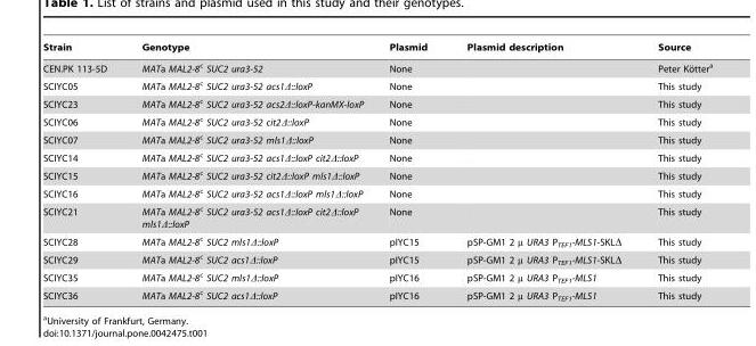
<table><thead><tr><td>Strain</td><td>Genotype</td><td>Plasmid</td><td>Plasmid description</td><td>Source</td></tr></thead><tbody><tr><td>CEN.PK 113-5D</td><td>MATa MAL2-8<sup>c</sup> SUC2 ura3-52</td><td>None</td><td></td><td>Peter Ko¨ttera</td></tr><tr><td>SCIYC05</td><td>MATa MAL2-8<sup>c</sup> SUC2 ura3-52 acs1Δ::loxP</td><td>None</td><td></td><td>This study</td></tr><tr><td>SCIYC23</td><td>MATa MAL2-8<sup>c</sup> SUC2 ura3-52 acs2Δ::loxP-kanMX-loxP</td><td>None</td><td></td><td>This study</td></tr><tr><td>SCIYC06</td><td>MATa MAL2-8<sup>c</sup> SUC2 ura3-52 cit2Δ::loxP</td><td>None</td><td></td><td>This study</td></tr><tr><td>SCIYC07</td><td>MATa MAL2-8<sup>c</sup> SUC2 ura3-52 mls1Δ::loxP</td><td>None</td><td></td><td>This study</td></tr><tr><td>SCIYC14</td><td>MATa MAL2-8<sup>c</sup> SUC2 ura3-52 acs1Δ::loxP cit2Δ::loxP</td><td>None</td><td></td><td>This study</td></tr><tr><td>SCIYC15</td><td>MATa MAL2-8<sup>c</sup> SUC2 ura3-52 cit2Δ::loxP mls1Δ::loxP</td><td>None</td><td></td><td>This study</td></tr><tr><td>SCIYC16</td><td>MATa MAL2-8<sup>c</sup> SUC2 ura3-52 acs1Δ::loxP mls1Δ::loxP</td><td>None</td><td></td><td>This study</td></tr><tr><td>SCIYC21</td><td>MATa MAL2-8<sup>c</sup> SUC2 ura3-52 acs1Δ::loxP cit2Δ::loxP mls1Δ::loxP</td><td>None</td><td></td><td>This study</td></tr><tr><td>SCIYC28</td><td>MATa MAL2-8<sup>c</sup> SUC2 mls1Δ::loxP</td><td>pIYC15</td><td>pSP-GM1 2 µ URA3 P<sub>TEF1</sub>-MLS1-SKLΔ</td><td>This study</td></tr><tr><td>SCIYC29</td><td>MATa MAL2-8<sup>c</sup> SUC2 acs1Δ::loxP</td><td>pIYC15</td><td>pSP-GM1 2 µ URA3 P<sub>TEF1</sub>-MLS1-SKLΔ</td><td>This study</td></tr><tr><td>SCIYC35</td><td>MATa MAL2-8<sup>c</sup> SUC2 mls1Δ::loxP</td><td>pIYC16</td><td>pSP-GM1 2 µ URA3 P<sub>TEF1</sub>-MLS1</td><td>This study</td></tr><tr><td>SCIYC36</td><td>MATa MAL2-8<sup>c</sup> SUC2 acs1Δ::loxP</td><td>pIYC16</td><td>pSP-GM1 2 µ URA3 P<sub>TEF1</sub>-MLS1</td><td>This study</td></tr></tbody></table>